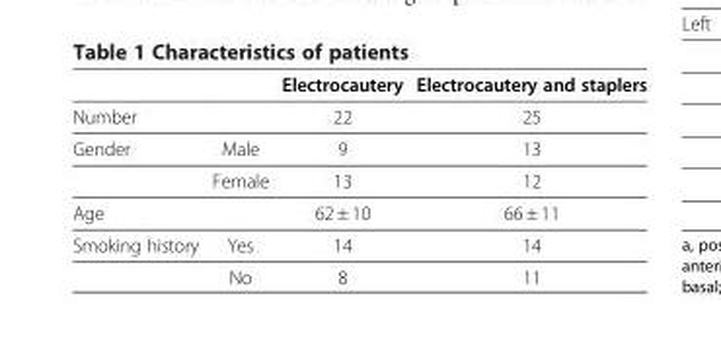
<table><thead><tr><td></td><td></td><td>Electrocautery</td><td>Electrocautery and staplers</td></tr></thead><tbody><tr><td>Number</td><td></td><td>22</td><td>25</td></tr><tr><td rowspan="2">Gender</td><td>Male</td><td>9</td><td>13</td></tr><tr><td>Female</td><td>13</td><td>12</td></tr><tr><td>Age</td><td></td><td>62 ± 10</td><td>66 ± 11</td></tr><tr><td rowspan="2">Smoking history</td><td>Yes</td><td>14</td><td>14</td></tr><tr><td>No</td><td>8</td><td>11</td></tr></tbody></table>